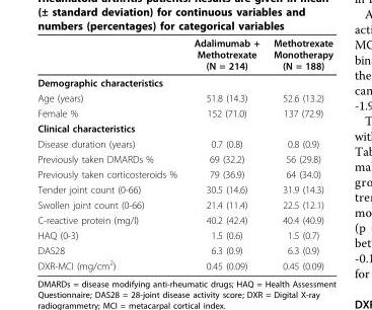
<table><thead><tr><td></td><td>Adalimumab + Methotrexate (N = 214)</td><td>Methotrexate Monotherapy (N = 188)</td></tr></thead><tbody><tr><td colspan="3">Demographic characteristics</td></tr><tr><td>Age (years)</td><td>51.8 (14.3)</td><td>52.6 (13.2)</td></tr><tr><td>Female %</td><td>152 (71.0)</td><td>137 (72.9)</td></tr><tr><td colspan="3">Clinical characteristics</td></tr><tr><td>Disease duration (years)</td><td>0.7 (0.8)</td><td>0.8 (0.9)</td></tr><tr><td>Previously taken DMARDs %</td><td>69 (32.2)</td><td>56 (29.8)</td></tr><tr><td>Previously taken corticosteroids %</td><td>79 (36.9)</td><td>64 (34.0)</td></tr><tr><td>Tender joint count (0-66)</td><td>30.5 (14.6)</td><td>31.9 (14.3)</td></tr><tr><td>Swollen joint count (0-66)</td><td>21.4 (11.4)</td><td>22.5 (12.1)</td></tr><tr><td>C-reactive protein (mg/l)</td><td>40.2 (42.4)</td><td>40.4 (40.9)</td></tr><tr><td>HAQ (0-3)</td><td>1.5 (0.6)</td><td>1.5 (0.7)</td></tr><tr><td>DAS28</td><td>6.3 (0.9)</td><td>6.3 (0.9)</td></tr><tr><td>DXR-MCI (mg/cm<sup>2</sup>)</td><td>0.45 (0.09)</td><td>0.45 (0.09)</td></tr></tbody></table>